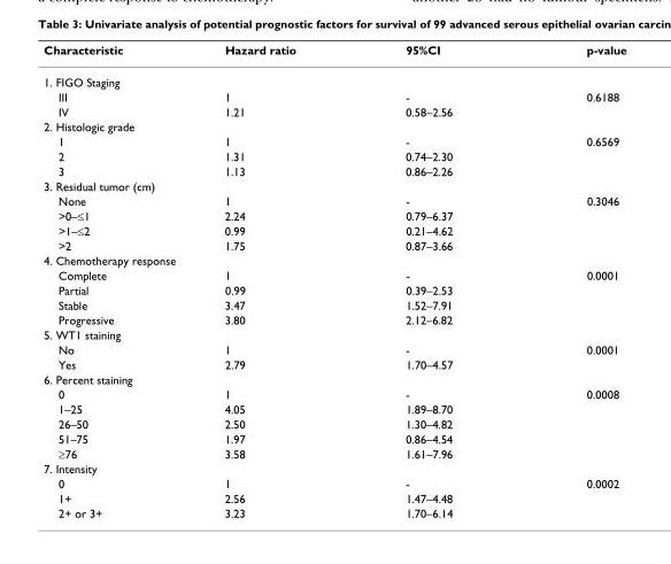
<table><thead><tr><td>Characteristic</td><td>Hazard ratio</td><td>95%CI</td><td>p-value</td></tr></thead><tbody><tr><td colspan="4">1. FIGO Staging</td></tr><tr><td>III</td><td>1</td><td>-</td><td>0.6188</td></tr><tr><td>IV</td><td>1.21</td><td>0.58–2.56</td><td></td></tr><tr><td colspan="4">2. Histologic grade</td></tr><tr><td>1</td><td>1</td><td>-</td><td>0.6569</td></tr><tr><td>2</td><td>1.31</td><td>0.74–2.30</td><td></td></tr><tr><td>3</td><td>1.13</td><td>0.86–2.26</td><td></td></tr><tr><td colspan="4">3. Residual tumor (cm)</td></tr><tr><td>None</td><td>1</td><td>-</td><td>0.3046</td></tr><tr><td>&gt;0–≤1</td><td>2.24</td><td>0.79–6.37</td><td></td></tr><tr><td>&gt;1–≤2</td><td>0.99</td><td>0.21–4.62</td><td></td></tr><tr><td>&gt;2</td><td>1.75</td><td>0.87–3.66</td><td></td></tr><tr><td colspan="4">4. Chemotherapy response</td></tr><tr><td>Complete</td><td>1</td><td>-</td><td>0.0001</td></tr><tr><td>Partial</td><td>0.99</td><td>0.39–2.53</td><td></td></tr><tr><td>Stable</td><td>3.47</td><td>1.52–7.91</td><td></td></tr><tr><td>Progressive</td><td>3.80</td><td>2.12–6.82</td><td></td></tr><tr><td colspan="4">5. WT1 staining</td></tr><tr><td>No</td><td>1</td><td>-</td><td>0.0001</td></tr><tr><td>Yes</td><td>2.79</td><td>1.70–4.57</td><td></td></tr><tr><td colspan="4">6. Percent staining</td></tr><tr><td>0</td><td>1</td><td>-</td><td>0.0008</td></tr><tr><td>1–25</td><td>4.05</td><td>1.89–8.70</td><td></td></tr><tr><td>26–50</td><td>2.50</td><td>1.30–4.82</td><td></td></tr><tr><td>51–75</td><td>1.97</td><td>0.86–4.54</td><td></td></tr><tr><td>≥76</td><td>3.58</td><td>1.61–7.96</td><td></td></tr><tr><td colspan="4">7. Intensity</td></tr><tr><td>0</td><td>1</td><td>-</td><td>0.0002</td></tr><tr><td>1+</td><td>2.56</td><td>1.47–4.48</td><td></td></tr><tr><td>2+ or 3+</td><td>3.23</td><td>1.70–6.14</td><td></td></tr></tbody></table>